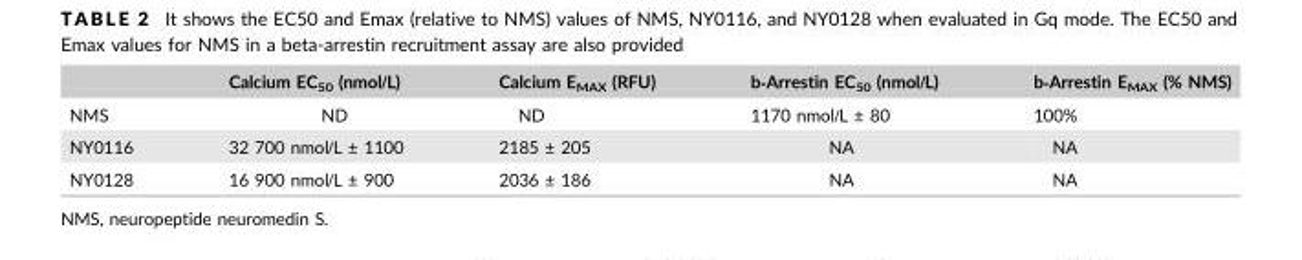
<table><thead><tr><td></td><td>Calcium EC<sub>50</sub> (nmol/L)</td><td>Calcium E<sub>MAX</sub> (RFU)</td><td>b‐Arrestin EC<sub>50</sub> (nmol/L)</td><td>b‐Arrestin E<sub>MAX</sub> (% NMS)</td></tr></thead><tbody><tr><td>NMS</td><td>ND</td><td>ND</td><td>1170 nmol/L ± 80</td><td>100%</td></tr><tr><td>NY0116</td><td>32 700 nmol/L ± 1100</td><td>2185 ± 205</td><td>NA</td><td>NA</td></tr><tr><td>NY0128</td><td>16 900 nmol/L ± 900</td><td>2036 ± 186</td><td>NA</td><td>NA</td></tr></tbody></table>